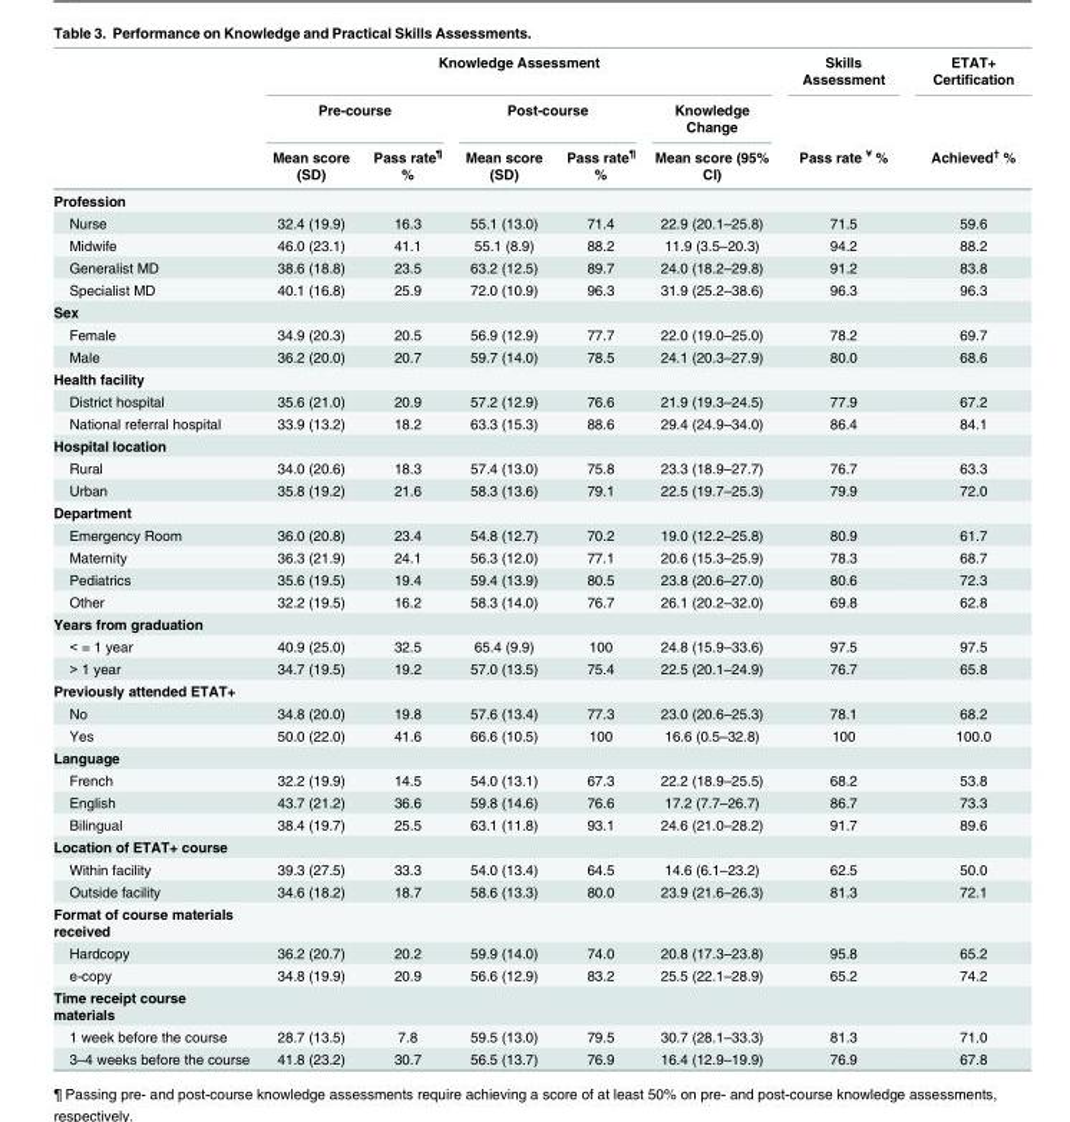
<table><thead><tr><td rowspan="3"></td><td colspan="5">Knowledge Assessment</td><td rowspan="3">Skills Assessment Pass rate <sup>¥</sup> %</td><td rowspan="3">ETAT+ Certification Achieved<sup>†</sup> %</td></tr><tr><td colspan="2">Pre-course</td><td colspan="2">Post-course</td><td rowspan="2">Knowledge Change Mean score (95% CI)</td></tr><tr><td>Mean score (SD)</td><td>Pass rate<sup>¶</sup> %</td><td>Mean score (SD)</td><td>Pass rate<sup>¶</sup> %</td></tr></thead><tbody><tr><td colspan="8">Profession</td></tr><tr><td>Nurse</td><td>32.4 (19.9)</td><td>16.3</td><td>55.1 (13.0)</td><td>71.4</td><td>22.9 (20.1–25.8)</td><td>71.5</td><td>59.6</td></tr><tr><td>Midwife</td><td>46.0 (23.1)</td><td>41.1</td><td>55.1 (8.9)</td><td>88.2</td><td>11.9 (3.5–20.3)</td><td>94.2</td><td>88.2</td></tr><tr><td>Generalist MD</td><td>38.6 (18.8)</td><td>23.5</td><td>63.2 (12.5)</td><td>89.7</td><td>24.0 (18.2–29.8)</td><td>91.2</td><td>83.8</td></tr><tr><td>Specialist MD</td><td>40.1 (16.8)</td><td>25.9</td><td>72.0 (10.9)</td><td>96.3</td><td>31.9 (25.2–38.6)</td><td>96.3</td><td>96.3</td></tr><tr><td colspan="8">Sex</td></tr><tr><td>Female</td><td>34.9 (20.3)</td><td>20.5</td><td>56.9 (12.9)</td><td>77.7</td><td>22.0 (19.0–25.0)</td><td>78.2</td><td>69.7</td></tr><tr><td>Male</td><td>36.2 (20.0)</td><td>20.7</td><td>59.7 (14.0)</td><td>78.5</td><td>24.1 (20.3–27.9)</td><td>80.0</td><td>68.6</td></tr><tr><td colspan="8">Health facility</td></tr><tr><td>District hospital</td><td>35.6 (21.0)</td><td>20.9</td><td>57.2 (12.9)</td><td>76.6</td><td>21.9 (19.3–24.5)</td><td>77.9</td><td>67.2</td></tr><tr><td>National referral hospital</td><td>33.9 (13.2)</td><td>18.2</td><td>63.3 (15.3)</td><td>88.6</td><td>29.4 (24.9–34.0)</td><td>86.4</td><td>84.1</td></tr><tr><td colspan="8">Hospital location</td></tr><tr><td>Rural</td><td>34.0 (20.6)</td><td>18.3</td><td>57.4 (13.0)</td><td>75.8</td><td>23.3 (18.9–27.7)</td><td>76.7</td><td>63.3</td></tr><tr><td>Urban</td><td>35.8 (19.2)</td><td>21.6</td><td>58.3 (13.6)</td><td>79.1</td><td>22.5 (19.7–25.3)</td><td>79.9</td><td>72.0</td></tr><tr><td colspan="8">Department</td></tr><tr><td>Emergency Room</td><td>36.0 (20.8)</td><td>23.4</td><td>54.8 (12.7)</td><td>70.2</td><td>19.0 (12.2–25.8)</td><td>80.9</td><td>61.7</td></tr><tr><td>Maternity</td><td>36.3 (21.9)</td><td>24.1</td><td>56.3 (12.0)</td><td>77.1</td><td>20.6 (15.3–25.9)</td><td>78.3</td><td>68.7</td></tr><tr><td>Pediatrics</td><td>35.6 (19.5)</td><td>19.4</td><td>59.4 (13.9)</td><td>80.5</td><td>23.8 (20.6–27.0)</td><td>80.6</td><td>72.3</td></tr><tr><td>Other</td><td>32.2 (19.5)</td><td>16.2</td><td>58.3 (14.0)</td><td>76.7</td><td>26.1 (20.2–32.0)</td><td>69.8</td><td>62.8</td></tr><tr><td colspan="8">Years from graduation</td></tr><tr><td>&lt; = 1 year</td><td>40.9 (25.0)</td><td>32.5</td><td>65.4 (9.9)</td><td>100</td><td>24.8 (15.9–33.6)</td><td>97.5</td><td>97.5</td></tr><tr><td>&gt; 1 year</td><td>34.7 (19.5)</td><td>19.2</td><td>57.0 (13.5)</td><td>75.4</td><td>22.5 (20.1–24.9)</td><td>76.7</td><td>65.8</td></tr><tr><td colspan="8">Previously attended ETAT+</td></tr><tr><td>No</td><td>34.8 (20.0)</td><td>19.8</td><td>57.6 (13.4)</td><td>77.3</td><td>23.0 (20.6–25.3)</td><td>78.1</td><td>68.2</td></tr><tr><td>Yes</td><td>50.0 (22.0)</td><td>41.6</td><td>66.6 (10.5)</td><td>100</td><td>16.6 (0.5–32.8)</td><td>100</td><td>100.0</td></tr><tr><td colspan="8">Language</td></tr><tr><td>French</td><td>32.2 (19.9)</td><td>14.5</td><td>54.0 (13.1)</td><td>67.3</td><td>22.2 (18.9–25.5)</td><td>68.2</td><td>53.8</td></tr><tr><td>English</td><td>43.7 (21.2)</td><td>36.6</td><td>59.8 (14.6)</td><td>76.6</td><td>17.2 (7.7–26.7)</td><td>86.7</td><td>73.3</td></tr><tr><td>Bilingual</td><td>38.4 (19.7)</td><td>25.5</td><td>63.1 (11.8)</td><td>93.1</td><td>24.6 (21.0–28.2)</td><td>91.7</td><td>89.6</td></tr><tr><td colspan="8">Location of ETAT+ course</td></tr><tr><td>Within facility</td><td>39.3 (27.5)</td><td>33.3</td><td>54.0 (13.4)</td><td>64.5</td><td>14.6 (6.1–23.2)</td><td>62.5</td><td>50.0</td></tr><tr><td>Outside facility</td><td>34.6 (18.2)</td><td>18.7</td><td>58.6 (13.3)</td><td>80.0</td><td>23.9 (21.6–26.3)</td><td>81.3</td><td>72.1</td></tr><tr><td colspan="8">Format of course materials received</td></tr><tr><td>Hardcopy</td><td>36.2 (20.7)</td><td>20.2</td><td>59.9 (14.0)</td><td>74.0</td><td>20.8 (17.3–23.8)</td><td>95.8</td><td>65.2</td></tr><tr><td>e-copy</td><td>34.8 (19.9)</td><td>20.9</td><td>56.6 (12.9)</td><td>83.2</td><td>25.5 (22.1–28.9)</td><td>65.2</td><td>74.2</td></tr><tr><td colspan="8">Time receipt course materials</td></tr><tr><td>1 week before the course</td><td>28.7 (13.5)</td><td>7.8</td><td>59.5 (13.0)</td><td>79.5</td><td>30.7 (28.1–33.3)</td><td>81.3</td><td>71.0</td></tr><tr><td>3–4 weeks before the course</td><td>41.8 (23.2)</td><td>30.7</td><td>56.5 (13.7)</td><td>76.9</td><td>16.4 (12.9–19.9)</td><td>76.9</td><td>67.8</td></tr></tbody></table>